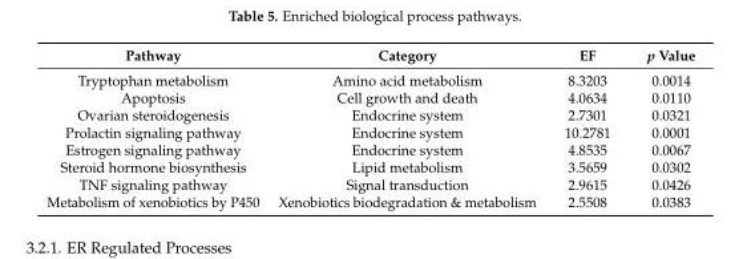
<table><thead><tr><td>Pathway</td><td>Category</td><td>EF</td><td>p Value</td></tr></thead><tbody><tr><td>Tryptophan metabolism</td><td>Amino acid metabolism</td><td>8.3203</td><td>0.0014</td></tr><tr><td>Apoptosis</td><td>Cell growth and death</td><td>4.0634</td><td>0.0110</td></tr><tr><td>Ovarian steroidogenesis</td><td>Endocrine system</td><td>2.7301</td><td>0.0321</td></tr><tr><td>Prolactin signaling pathway</td><td>Endocrine system</td><td>10.2781</td><td>0.0001</td></tr><tr><td>Estrogen signaling pathway</td><td>Endocrine system</td><td>4.8535</td><td>0.0067</td></tr><tr><td>Steroid hormone biosynthesis</td><td>Lipid metabolism</td><td>3.5659</td><td>0.0302</td></tr><tr><td>TNF signaling pathway</td><td>Signal transduction</td><td>2.9615</td><td>0.0426</td></tr><tr><td>Metabolism of xenobiotics by P450</td><td>Xenobiotics biodegradation &amp; metabolism</td><td>2.5508</td><td>0.0383</td></tr></tbody></table>